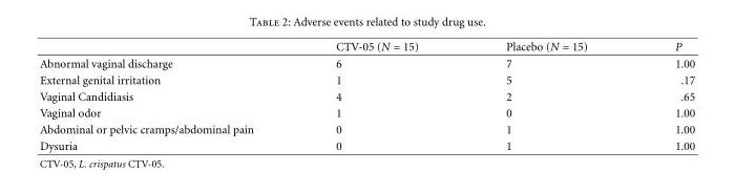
<table><thead><tr><td></td><td>CTV-05 (N = 15)</td><td>Placebo (N = 15)</td><td>P</td></tr></thead><tbody><tr><td>Abnormal vaginal discharge</td><td>6</td><td>7</td><td>1.00</td></tr><tr><td>External genital irritation</td><td>1</td><td>5</td><td>.17</td></tr><tr><td>Vaginal Candidiasis</td><td>4</td><td>2</td><td>.65</td></tr><tr><td>Vaginal odor</td><td>1</td><td>0</td><td>1.00</td></tr><tr><td>Abdominal or pelvic cramps/abdominal pain</td><td>0</td><td>1</td><td>1.00</td></tr><tr><td>Dysuria</td><td>0</td><td>1</td><td>1.00</td></tr></tbody></table>